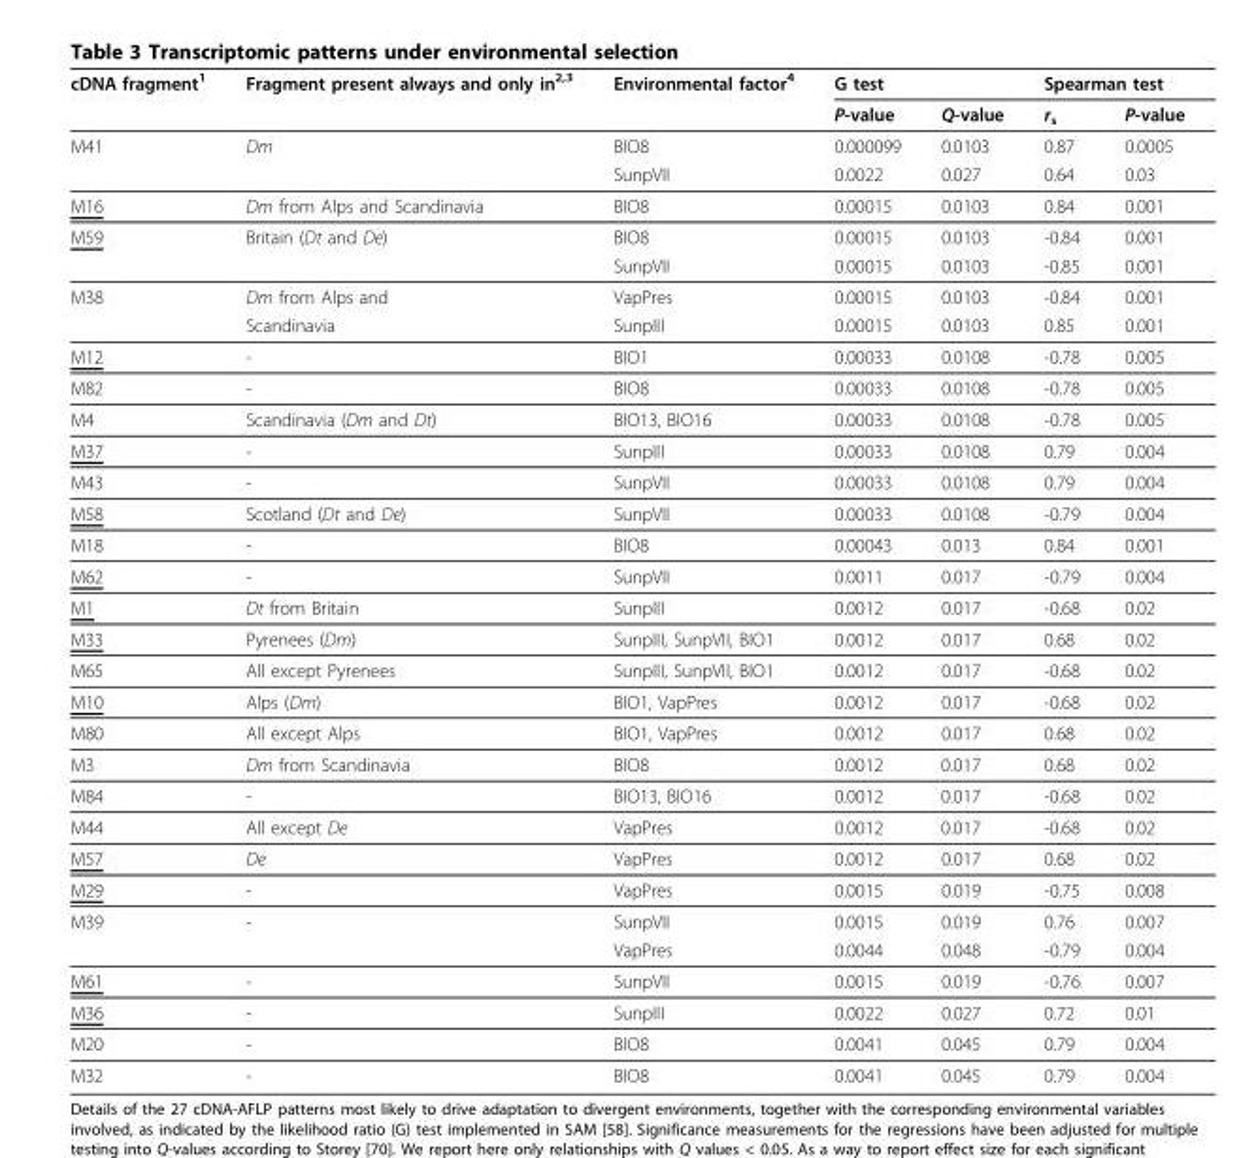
<table><thead><tr><td rowspan="2">cDNA fragment<sup>1</sup></td><td rowspan="2">Fragment present always and only in<sup>2,3</sup></td><td rowspan="2">Environmental factor<sup>4</sup></td><td colspan="2">G test</td><td colspan="2">Spearman test</td></tr><tr><td>P-value</td><td>Q-value</td><td>r<sub>s</sub></td><td>P-value</td></tr></thead><tbody><tr><td rowspan="2">M41</td><td>Dm</td><td>BIO8</td><td>0.000099</td><td>0.0103</td><td>0.87</td><td>0.0005</td></tr><tr><td></td><td>SunpVII</td><td>0.0022</td><td>0.027</td><td>0.64</td><td>0.03</td></tr><tr><td>M16</td><td>Dm from Alps and Scandinavia</td><td>BIO8</td><td>0.00015</td><td>0.0103</td><td>0.84</td><td>0.001</td></tr><tr><td rowspan="2">M59</td><td>Britain (Dt and De)</td><td>BIO8</td><td>0.00015</td><td>0.0103</td><td>-0.84</td><td>0.001</td></tr><tr><td></td><td>SunpVII</td><td>0.00015</td><td>0.0103</td><td>-0.85</td><td>0.001</td></tr><tr><td rowspan="2">M38</td><td>Dm from Alps and</td><td>VapPres</td><td>0.00015</td><td>0.0103</td><td>-0.84</td><td>0.001</td></tr><tr><td>Scandinavia</td><td>SunpIII</td><td>0.00015</td><td>0.0103</td><td>0.85</td><td>0.001</td></tr><tr><td>M12</td><td>-</td><td>BIO1</td><td>0.00033</td><td>0.0108</td><td>-0.78</td><td>0.005</td></tr><tr><td>M82</td><td>-</td><td>BIO8</td><td>0.00033</td><td>0.0108</td><td>-0.78</td><td>0.005</td></tr><tr><td>M4</td><td>Scandinavia (Dm and Dt)</td><td>BIO13, BIO16</td><td>0.00033</td><td>0.0108</td><td>-0.78</td><td>0.005</td></tr><tr><td>M37</td><td>-</td><td>SunpIII</td><td>0.00033</td><td>0.0108</td><td>0.79</td><td>0.004</td></tr><tr><td>M43</td><td>-</td><td>SunpVII</td><td>0.00033</td><td>0.0108</td><td>0.79</td><td>0.004</td></tr><tr><td>M58</td><td>Scotland (Dt and De)</td><td>SunpVII</td><td>0.00033</td><td>0.0108</td><td>-0.79</td><td>0.004</td></tr><tr><td>M18</td><td>-</td><td>BIO8</td><td>0.00043</td><td>0.013</td><td>0.84</td><td>0.001</td></tr><tr><td>M62</td><td>-</td><td>SunpVII</td><td>0.0011</td><td>0.017</td><td>-0.79</td><td>0.004</td></tr><tr><td>M1</td><td>Dt from Britain</td><td>SunpIII</td><td>0.0012</td><td>0.017</td><td>-0.68</td><td>0.02</td></tr><tr><td>M33</td><td>Pyrenees (Dm)</td><td>SunpIII, SunpVII, BIO1</td><td>0.0012</td><td>0.017</td><td>0.68</td><td>0.02</td></tr><tr><td>M65</td><td>All except Pyrenees</td><td>SunpIII, SunpVII, BIO1</td><td>0.0012</td><td>0.017</td><td>-0.68</td><td>0.02</td></tr><tr><td>M10</td><td>Alps (Dm)</td><td>BIO1, VapPres</td><td>0.0012</td><td>0.017</td><td>-0.68</td><td>0.02</td></tr><tr><td>M80</td><td>All except Alps</td><td>BIO1, VapPres</td><td>0.0012</td><td>0.017</td><td>0.68</td><td>0.02</td></tr><tr><td>M3</td><td>Dm from Scandinavia</td><td>BIO8</td><td>0.0012</td><td>0.017</td><td>0.68</td><td>0.02</td></tr><tr><td>M84</td><td>-</td><td>BIO13, BIO16</td><td>0.0012</td><td>0.017</td><td>-0.68</td><td>0.02</td></tr><tr><td>M44</td><td>All except De</td><td>VapPres</td><td>0.0012</td><td>0.017</td><td>-0.68</td><td>0.02</td></tr><tr><td>M57</td><td>De</td><td>VapPres</td><td>0.0012</td><td>0.017</td><td>0.68</td><td>0.02</td></tr><tr><td>M29</td><td>-</td><td>VapPres</td><td>0.0015</td><td>0.019</td><td>-0.75</td><td>0.008</td></tr><tr><td rowspan="2">M39</td><td>-</td><td>SunpVII</td><td>0.0015</td><td>0.019</td><td>0.76</td><td>0.007</td></tr><tr><td></td><td>VapPres</td><td>0.0044</td><td>0.048</td><td>-0.79</td><td>0.004</td></tr><tr><td>M61</td><td>-</td><td>SunpVII</td><td>0.0015</td><td>0.019</td><td>-0.76</td><td>0.007</td></tr><tr><td>M36</td><td>-</td><td>SunpIII</td><td>0.0022</td><td>0.027</td><td>0.72</td><td>0.01</td></tr><tr><td>M20</td><td>-</td><td>BIO8</td><td>0.0041</td><td>0.045</td><td>0.79</td><td>0.004</td></tr><tr><td>M32</td><td>-</td><td>BIO8</td><td>0.0041</td><td>0.045</td><td>0.79</td><td>0.004</td></tr></tbody></table>